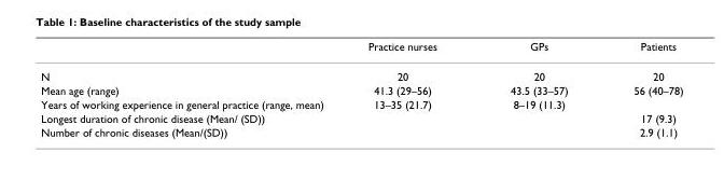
<table><thead><tr><td></td><td>Practice nurses</td><td>GPs</td><td>Patients</td></tr></thead><tbody><tr><td>N</td><td>20</td><td>20</td><td>20</td></tr><tr><td>Mean age (range)</td><td>41.3 (29–56)</td><td>43.5 (33–57)</td><td>56 (40–78)</td></tr><tr><td>Years of working experience in general practice (range, mean)</td><td>13–35 (21.7)</td><td>8–19 (11.3)</td><td></td></tr><tr><td>Longest duration of chronic disease (Mean/ (SD))</td><td></td><td></td><td>17 (9.3)</td></tr><tr><td>Number of chronic diseases (Mean/(SD))</td><td></td><td></td><td>2.9 (1.1)</td></tr></tbody></table>